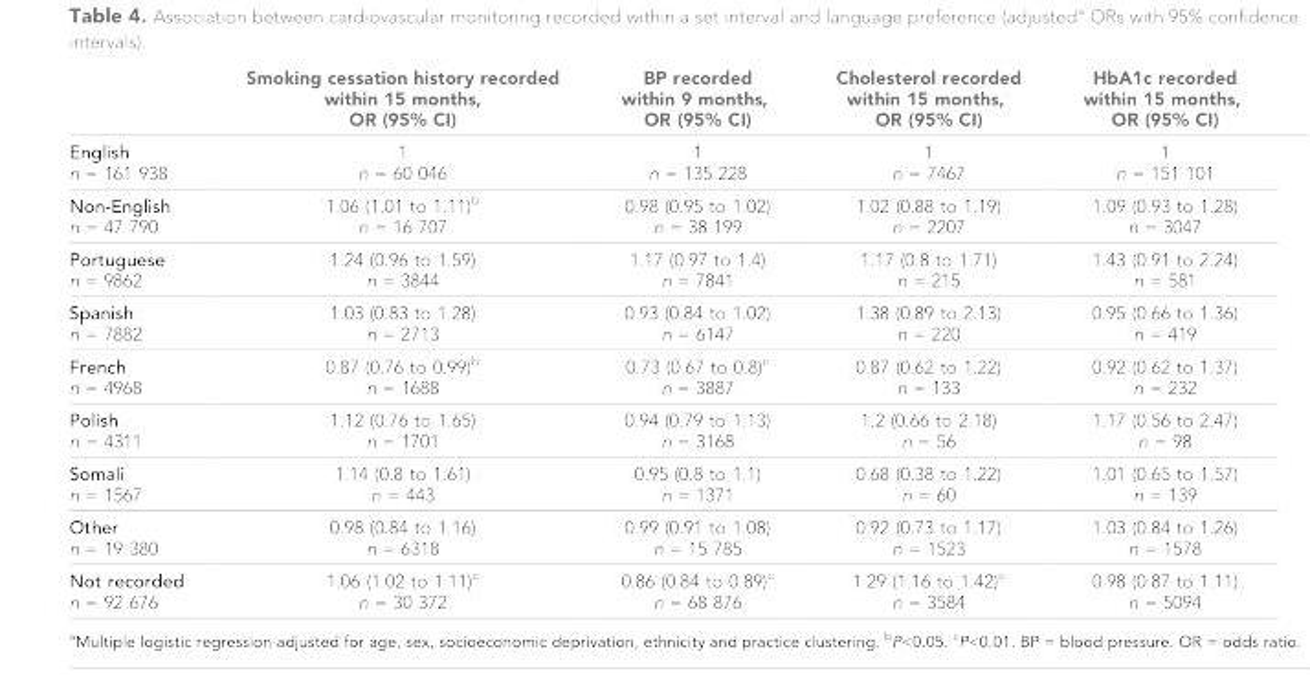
<table><thead><tr><td></td><td>Smoking cessation history recorded within 15 months, OR (95% CI)</td><td>BP recorded within 9 months, OR (95% CI)</td><td>Cholesterol recorded within 15 months, OR (95% CI)</td><td>HbA1c recorded within 15 months, OR (95% CI)</td></tr></thead><tbody><tr><td>English n = 161 938</td><td>1 n = 60 046</td><td>1 n = 135 228</td><td>1 n = 7467</td><td>1 n = 151 101</td></tr><tr><td>Non-English n = 47 790</td><td>1.06 (1.01 to 1.11)<sup>b</sup> n = 16 707</td><td>0.98 (0.95 to 1.02) n = 38 199</td><td>1.02 (0.88 to 1.19) n = 2207</td><td>1.09 (0.93 to 1.28) n = 3047</td></tr><tr><td>Portuguese n = 9862</td><td>1.24 (0.96 to 1.59) n = 3844</td><td>1.17 (0.97 to 1.4) n = 7841</td><td>1.17 (0.8 to 1.71) n = 215</td><td>1.43 (0.91 to 2.24) n = 581</td></tr><tr><td>Spanish n = 7882</td><td>1.03 (0.83 to 1.28) n = 2713</td><td>0.93 (0.84 to 1.02) n = 6147</td><td>1.38 (0.89 to 2.13) n = 220</td><td>0.95 (0.66 to 1.36) n = 419</td></tr><tr><td>French n = 4968</td><td>0.87 (0.76 to 0.99)<sup>b</sup> n = 1688</td><td>0.73 (0.67 to 0.8)<sup>c</sup> n = 3887</td><td>0.87 (0.62 to 1.22) n = 133</td><td>0.92 (0.62 to 1.37) n = 232</td></tr><tr><td>Polish n = 4311</td><td>1.12 (0.76 to 1.65) n = 1701</td><td>0.94 (0.79 to 1.13) n = 3168</td><td>1.2 (0.66 to 2.18) n = 56</td><td>1.17 (0.56 to 2.47) n = 98</td></tr><tr><td>Somali n = 1567</td><td>1.14 (0.8 to 1.61) n = 443</td><td>0.95 (0.8 to 1.1) n = 1371</td><td>0.68 (0.38 to 1.22) n = 60</td><td>1.01 (0.65 to 1.57) n = 139</td></tr><tr><td>Other n = 19 380</td><td>0.98 (0.84 to 1.16) n = 6318</td><td>0.99 (0.91 to 1.08) n = 15 785</td><td>0.92 (0.73 to 1.17) n = 1523</td><td>1.03 (0.84 to 1.26) n = 1578</td></tr><tr><td>Not recorded n = 92 676</td><td>1.06 (1.02 to 1.11)<sup>c</sup> n = 30 372</td><td>0.86 (0.84 to 0.89)<sup>c</sup> n = 68 876</td><td>1.29 (1.16 to 1.42)<sup>c</sup> n = 3584</td><td>0.98 (0.87 to 1.11) n = 5094</td></tr></tbody></table>